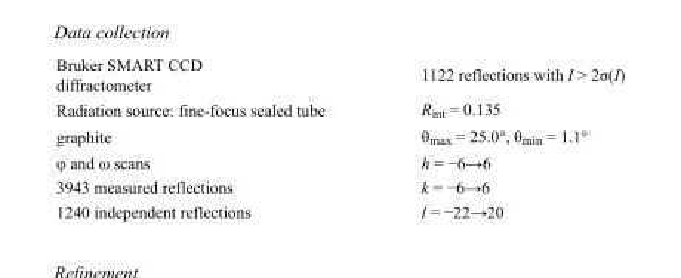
<table><tbody><tr><td>Bruker SMART CCD diffractometer</td><td>1122 reflections with I &gt; 2σ(I)</td></tr><tr><td>Radiation source: fine-focus sealed tube</td><td>R<sub>int</sub> = 0.135</td></tr><tr><td>graphite</td><td>θ<sub>max</sub> = 25.0°, θ<sub>min</sub> = 1.1°</td></tr><tr><td>φ and ω scans</td><td>h = −6→6</td></tr><tr><td>3943 measured reflections</td><td>k = −6→6</td></tr><tr><td>1240 independent reflections</td><td>l = −22→20</td></tr></tbody></table>